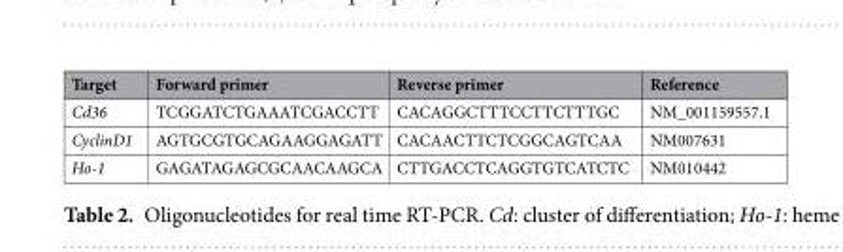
<table><thead><tr><td>Target</td><td>Forward primer</td><td>Reverse primer</td><td>Reference</td></tr></thead><tbody><tr><td>Cd36</td><td>TCGGATCTGAAATCGACCTT</td><td>CACAGGCTTTCCTTCTTTGC</td><td>NM_001159557.1</td></tr><tr><td>CyclinD1</td><td>AGTGCGTGCAGAAGGAGATT</td><td>CACAACTTCTCGGCAGTCAA</td><td>NM007631</td></tr><tr><td>Ho-1</td><td>GAGATAGAGCGCAACAAGCA</td><td>CTTGACCTCAGGTGTCATCTC</td><td>NM010442</td></tr></tbody></table>